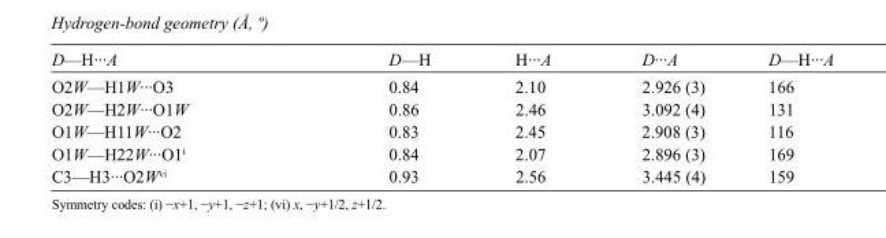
<table><tbody><tr><td>D—H···A</td><td>D—H</td><td>H···A</td><td>D···A</td><td>D—H···A</td></tr><tr><td>O2W—H1W···O3</td><td>0.84</td><td>2.10</td><td>2.926 (3)</td><td>166</td></tr><tr><td>O2W—H2W···O1W</td><td>0.86</td><td>2.46</td><td>3.092 (4)</td><td>131</td></tr><tr><td>O1W—H11W···O2</td><td>0.83</td><td>2.45</td><td>2.908 (3)</td><td>116</td></tr><tr><td>O1W—H22W···O1<sup>i</sup></td><td>0.84</td><td>2.07</td><td>2.896 (3)</td><td>169</td></tr><tr><td>C3—H3···O2W<sup>vi</sup></td><td>0.93</td><td>2.56</td><td>3.445 (4)</td><td>159</td></tr></tbody></table>